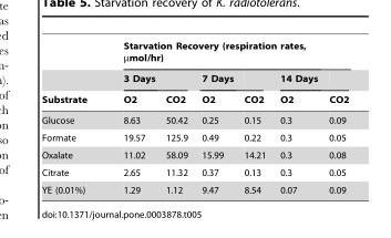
<table><thead><tr><td rowspan="3">Substrate</td><td colspan="5">Starvation Recovery (respiration rates, µmol/hr)</td><td rowspan="3">CO2</td></tr><tr><td rowspan="2">3 Days O2</td><td rowspan="2">CO2</td><td rowspan="2">7 Days O2</td><td rowspan="2">CO2</td><td rowspan="2">14 Days O2</td></tr><tr></tr></thead><tbody><tr><td>Glucose</td><td>8.63</td><td>50.42</td><td>0.25</td><td>0.15</td><td>0.3</td><td>0.09</td></tr><tr><td>Formate</td><td>19.57</td><td>125.9</td><td>0.49</td><td>0.22</td><td>0.3</td><td>0.05</td></tr><tr><td>Oxalate</td><td>11.02</td><td>58.09</td><td>15.99</td><td>14.21</td><td>0.3</td><td>0.08</td></tr><tr><td>Citrate</td><td>2.65</td><td>11.32</td><td>0.37</td><td>0.13</td><td>0.3</td><td>0.05</td></tr><tr><td>YE (0.01%)</td><td>1.29</td><td>1.12</td><td>9.47</td><td>8.54</td><td>0.07</td><td>0.09</td></tr></tbody></table>